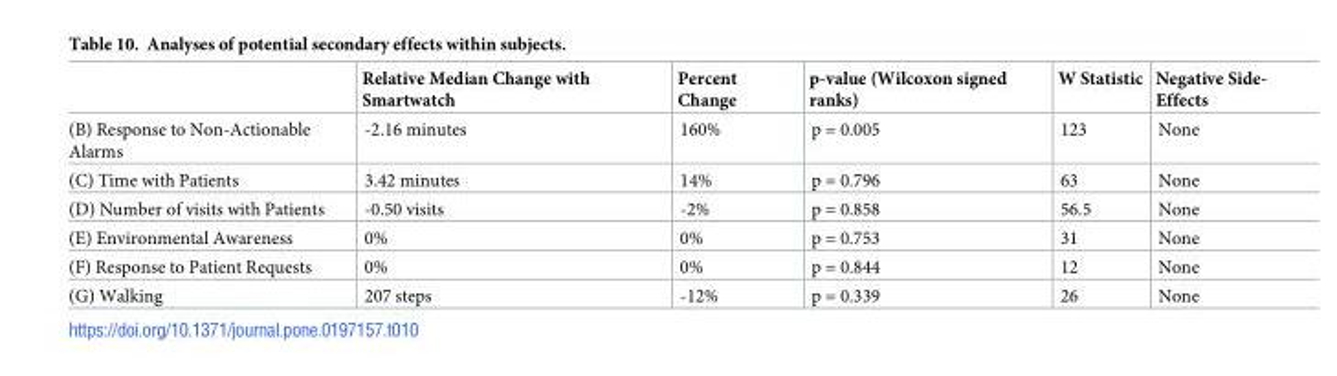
<table><thead><tr><td></td><td>Relative Median Change with Smartwatch</td><td>Percent Change</td><td>p-value (Wilcoxon signed ranks)</td><td>W Statistic</td><td>Negative Side- Effects</td></tr></thead><tbody><tr><td>(B) Response to Non-Actionable Alarms</td><td>-2.16 minutes</td><td>160%</td><td>p = 0.005</td><td>123</td><td>None</td></tr><tr><td>(C) Time with Patients</td><td>3.42 minutes</td><td>14%</td><td>p = 0.796</td><td>63</td><td>None</td></tr><tr><td>(D) Number of visits with Patients</td><td>-0.50 visits</td><td>-2%</td><td>p = 0.858</td><td>56.5</td><td>None</td></tr><tr><td>(E) Environmental Awareness</td><td>0%</td><td>0%</td><td>p = 0.753</td><td>31</td><td>None</td></tr><tr><td>(F) Response to Patient Requests</td><td>0%</td><td>0%</td><td>p = 0.844</td><td>12</td><td>None</td></tr><tr><td>(G) Walking</td><td>207 steps</td><td>-12%</td><td>p = 0.339</td><td>26</td><td>None</td></tr></tbody></table>